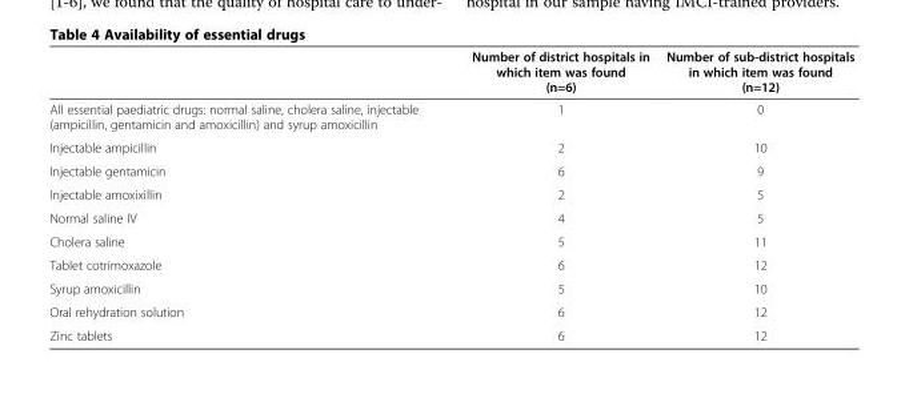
<table><thead><tr><td></td><td>Number of district hospitals in which item was found (n=6)</td><td>Number of sub-district hospitals in which item was found (n=12)</td></tr></thead><tbody><tr><td>All essential paediatric drugs: normal saline, cholera saline, injectable (ampicillin, gentamicin and amoxicillin) and syrup amoxicillin</td><td>1</td><td>0</td></tr><tr><td>Injectable ampicillin</td><td>2</td><td>10</td></tr><tr><td>Injectable gentamicin</td><td>6</td><td>9</td></tr><tr><td>Injectable amoxixillin</td><td>2</td><td>5</td></tr><tr><td>Normal saline IV</td><td>4</td><td>5</td></tr><tr><td>Cholera saline</td><td>5</td><td>11</td></tr><tr><td>Tablet cotrimoxazole</td><td>6</td><td>12</td></tr><tr><td>Syrup amoxicillin</td><td>5</td><td>10</td></tr><tr><td>Oral rehydration solution</td><td>6</td><td>12</td></tr><tr><td>Zinc tablets</td><td>6</td><td>12</td></tr></tbody></table>